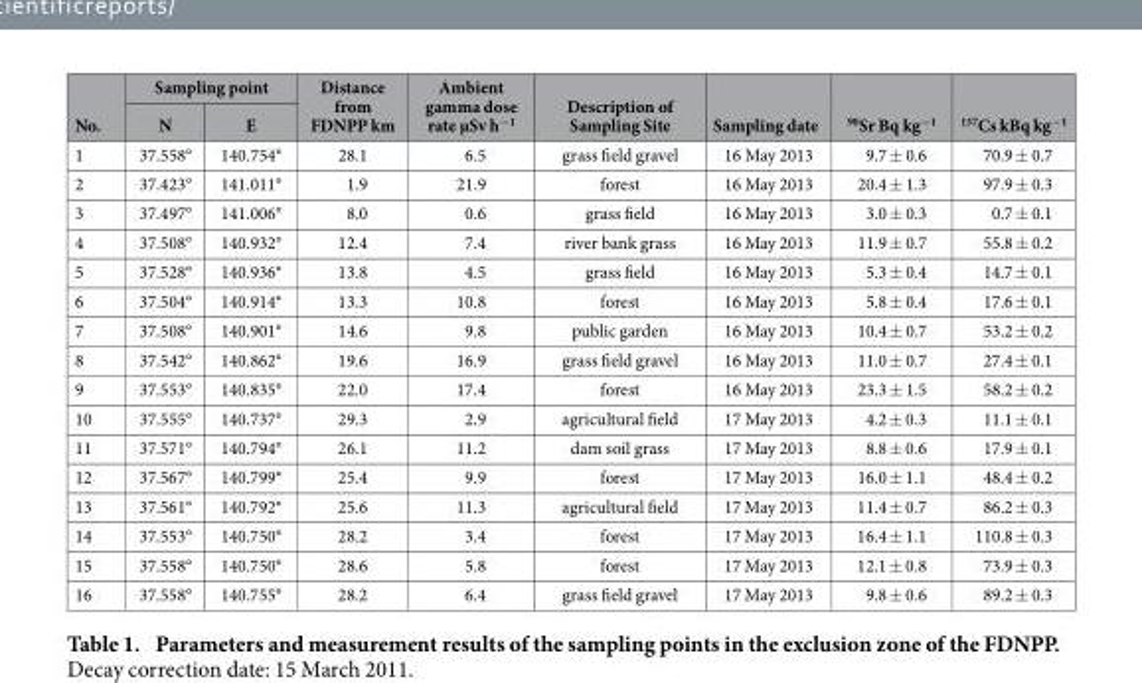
<table><thead><tr><td rowspan="2">No.</td><td colspan="2">Sampling point</td><td rowspan="2">Distance from FDNPP km</td><td rowspan="2">Ambient gamma dose rate μSv h<sup>−1</sup></td><td rowspan="2">Description of Sampling Site</td><td rowspan="2">Sampling date</td><td rowspan="2"><sup>90</sup>Sr Bq kg<sup>−1</sup></td><td rowspan="2"><sup>137</sup>Cs kBq kg<sup>−1</sup></td></tr><tr><td>N</td><td>E</td></tr></thead><tbody><tr><td>1</td><td>37.558°</td><td>140.754°</td><td>28.1</td><td>6.5</td><td>grass field gravel</td><td>16 May 2013</td><td>9.7 ± 0.6</td><td>70.9 ± 0.7</td></tr><tr><td>2</td><td>37.423°</td><td>141.011°</td><td>1.9</td><td>21.9</td><td>forest</td><td>16 May 2013</td><td>20.4 ± 1.3</td><td>97.9 ± 0.3</td></tr><tr><td>3</td><td>37.497°</td><td>141.006°</td><td>8.0</td><td>0.6</td><td>grass field</td><td>16 May 2013</td><td>3.0 ± 0.3</td><td>0.7 ± 0.1</td></tr><tr><td>4</td><td>37.508°</td><td>140.932°</td><td>12.4</td><td>7.4</td><td>river bank grass</td><td>16 May 2013</td><td>11.9 ± 0.7</td><td>55.8 ± 0.2</td></tr><tr><td>5</td><td>37.528°</td><td>140.936°</td><td>13.8</td><td>4.5</td><td>grass field</td><td>16 May 2013</td><td>5.3 ± 0.4</td><td>14.7 ± 0.1</td></tr><tr><td>6</td><td>37.504°</td><td>140.914°</td><td>13.3</td><td>10.8</td><td>forest</td><td>16 May 2013</td><td>5.8 ± 0.4</td><td>17.6 ± 0.1</td></tr><tr><td>7</td><td>37.508°</td><td>140.901°</td><td>14.6</td><td>9.8</td><td>public garden</td><td>16 May 2013</td><td>10.4 ± 0.7</td><td>53.2 ± 0.2</td></tr><tr><td>8</td><td>37.542°</td><td>140.862°</td><td>19.6</td><td>16.9</td><td>grass field gravel</td><td>16 May 2013</td><td>11.0 ± 0.7</td><td>27.4 ± 0.1</td></tr><tr><td>9</td><td>37.553°</td><td>140.835°</td><td>22.0</td><td>17.4</td><td>forest</td><td>16 May 2013</td><td>23.3 ± 1.5</td><td>58.2 ± 0.2</td></tr><tr><td>10</td><td>37.555°</td><td>140.737°</td><td>29.3</td><td>2.9</td><td>agricultural field</td><td>17 May 2013</td><td>4.2 ± 0.3</td><td>11.1 ± 0.1</td></tr><tr><td>11</td><td>37.571°</td><td>140.794°</td><td>26.1</td><td>11.2</td><td>dam soil grass</td><td>17 May 2013</td><td>8.8 ± 0.6</td><td>17.9 ± 0.1</td></tr><tr><td>12</td><td>37.567°</td><td>140.799°</td><td>25.4</td><td>9.9</td><td>forest</td><td>17 May 2013</td><td>16.0 ± 1.1</td><td>48.4 ± 0.2</td></tr><tr><td>13</td><td>37.561°</td><td>140.792°</td><td>25.6</td><td>11.3</td><td>agricultural field</td><td>17 May 2013</td><td>11.4 ± 0.7</td><td>86.2 ± 0.3</td></tr><tr><td>14</td><td>37.553°</td><td>140.750°</td><td>28.2</td><td>3.4</td><td>forest</td><td>17 May 2013</td><td>16.4 ± 1.1</td><td>110.8 ± 0.3</td></tr><tr><td>15</td><td>37.558°</td><td>140.750°</td><td>28.6</td><td>5.8</td><td>forest</td><td>17 May 2013</td><td>12.1 ± 0.8</td><td>73.9 ± 0.3</td></tr><tr><td>16</td><td>37.558°</td><td>140.755°</td><td>28.2</td><td>6.4</td><td>grass field gravel</td><td>17 May 2013</td><td>9.8 ± 0.6</td><td>89.2 ± 0.3</td></tr></tbody></table>